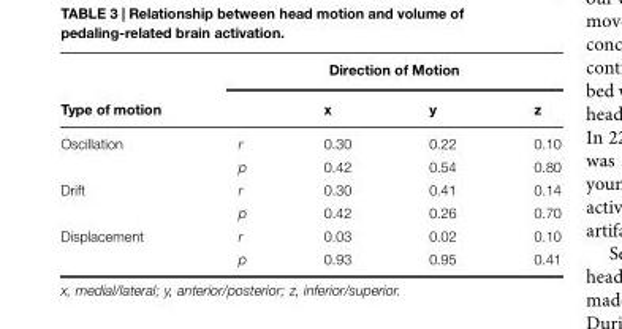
<table><thead><tr><td rowspan="2">Type of motion</td><td colspan="4">Direction of Motion</td></tr><tr><td></td><td>x</td><td>y</td><td>z</td></tr></thead><tbody><tr><td rowspan="2">Oscillation</td><td>r</td><td>0.30</td><td>0.22</td><td>0.10</td></tr><tr><td>p</td><td>0.42</td><td>0.54</td><td>0.80</td></tr><tr><td rowspan="2">Drift</td><td>r</td><td>0.30</td><td>0.41</td><td>0.14</td></tr><tr><td>p</td><td>0.42</td><td>0.26</td><td>0.70</td></tr><tr><td rowspan="2">Displacement</td><td>r</td><td>0.03</td><td>0.02</td><td>0.10</td></tr><tr><td>p</td><td>0.93</td><td>0.95</td><td>0.41</td></tr></tbody></table>